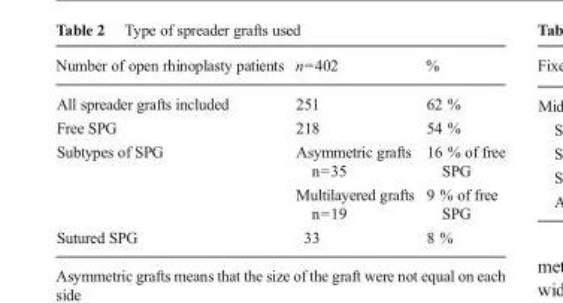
<table><thead><tr><td>Number of open rhinoplasty patients</td><td>n=402</td><td>%</td></tr></thead><tbody><tr><td>All spreader grafts included</td><td>251</td><td>62 %</td></tr><tr><td>Free SPG</td><td>218</td><td>54 %</td></tr><tr><td rowspan="2">Subtypes of SPG</td><td>Asymmetric grafts n=35</td><td>16 % of free SPG</td></tr><tr><td>Multilayered grafts n=19</td><td>9 % of free SPG</td></tr><tr><td>Sutured SPG</td><td>33</td><td>8 %</td></tr></tbody></table>